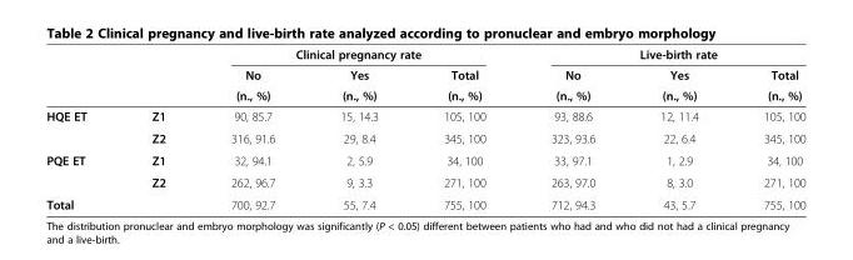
<table><thead><tr><td rowspan="3"></td><td rowspan="3"></td><td colspan="3">Clinical pregnancy rate</td><td colspan="3">Live-birth rate</td></tr><tr><td rowspan="2">No (n., %)</td><td rowspan="2">Yes (n., %)</td><td rowspan="2">Total (n., %)</td><td rowspan="2">No (n., %)</td><td rowspan="2">Yes (n., %)</td><td rowspan="2">Total (n., %)</td></tr><tr></tr></thead><tbody><tr><td rowspan="2">HQE ET</td><td>Z1</td><td>90, 85.7</td><td>15, 14.3</td><td>105, 100</td><td>93, 88.6</td><td>12, 11.4</td><td>105, 100</td></tr><tr><td>Z2</td><td>316, 91.6</td><td>29, 8.4</td><td>345, 100</td><td>323, 93.6</td><td>22, 6.4</td><td>345, 100</td></tr><tr><td rowspan="2">PQE ET</td><td>Z1</td><td>32, 94.1</td><td>2, 5.9</td><td>34, 100</td><td>33, 97.1</td><td>1, 2.9</td><td>34, 100</td></tr><tr><td>Z2</td><td>262, 96.7</td><td>9, 3.3</td><td>271, 100</td><td>263, 97.0</td><td>8, 3.0</td><td>271, 100</td></tr><tr><td>Total</td><td></td><td>700, 92.7</td><td>55, 7.4</td><td>755, 100</td><td>712, 94.3</td><td>43, 5.7</td><td>755, 100</td></tr></tbody></table>